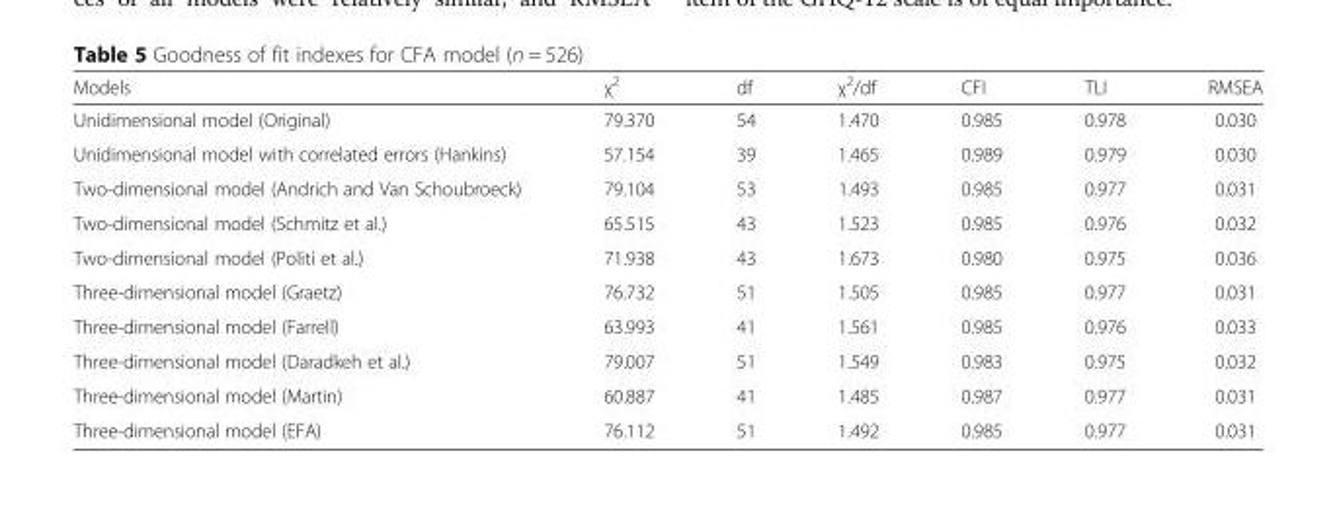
<table><thead><tr><td>Models</td><td>χ<sup>2</sup></td><td>df</td><td>χ<sup>2</sup>/df</td><td>CFI</td><td>TLI</td><td>RMSEA</td></tr></thead><tbody><tr><td>Unidimensional model (Original)</td><td>79.370</td><td>54</td><td>1.470</td><td>0.985</td><td>0.978</td><td>0.030</td></tr><tr><td>Unidimensional model with correlated errors (Hankins)</td><td>57.154</td><td>39</td><td>1.465</td><td>0.989</td><td>0.979</td><td>0.030</td></tr><tr><td>Two-dimensional model (Andrich and Van Schoubroeck)</td><td>79.104</td><td>53</td><td>1.493</td><td>0.985</td><td>0.977</td><td>0.031</td></tr><tr><td>Two-dimensional model (Schmitz et al.)</td><td>65.515</td><td>43</td><td>1.523</td><td>0.985</td><td>0.976</td><td>0.032</td></tr><tr><td>Two-dimensional model (Politi et al.)</td><td>71.938</td><td>43</td><td>1.673</td><td>0.980</td><td>0.975</td><td>0.036</td></tr><tr><td>Three-dimensional model (Graetz)</td><td>76.732</td><td>51</td><td>1.505</td><td>0.985</td><td>0.977</td><td>0.031</td></tr><tr><td>Three-dimensional model (Farrell)</td><td>63.993</td><td>41</td><td>1.561</td><td>0.985</td><td>0.976</td><td>0.033</td></tr><tr><td>Three-dimensional model (Daradkeh et al.)</td><td>79.007</td><td>51</td><td>1.549</td><td>0.983</td><td>0.975</td><td>0.032</td></tr><tr><td>Three-dimensional model (Martin)</td><td>60.887</td><td>41</td><td>1.485</td><td>0.987</td><td>0.977</td><td>0.031</td></tr><tr><td>Three-dimensional model (EFA)</td><td>76.112</td><td>51</td><td>1.492</td><td>0.985</td><td>0.977</td><td>0.031</td></tr></tbody></table>